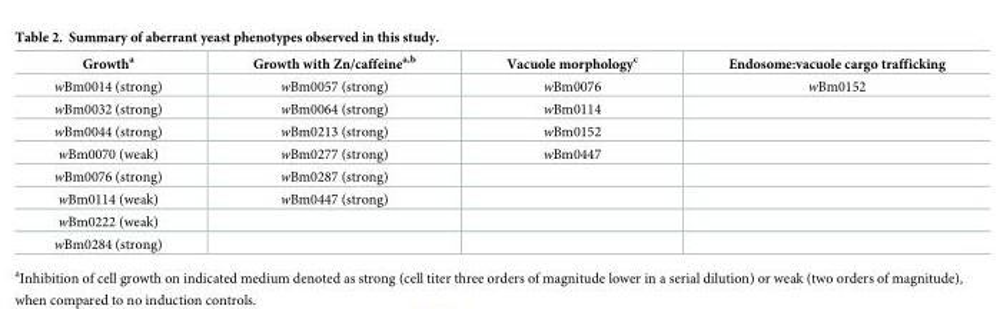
<table><thead><tr><td>Growth<sup>a</sup></td><td>Growth with Zn/caffeine<sup>a,b</sup></td><td>Vacuole morphology<sup>c</sup></td><td>Endosome:vacuole cargo trafficking</td></tr></thead><tbody><tr><td>wBm0014 (strong)</td><td>wBm0057 (strong)</td><td>wBm0076</td><td>wBm0152</td></tr><tr><td>wBm0032 (strong)</td><td>wBm0064 (strong)</td><td>wBm0114</td><td></td></tr><tr><td>wBm0044 (strong)</td><td>wBm0213 (strong)</td><td>wBm0152</td><td></td></tr><tr><td>wBm0070 (weak)</td><td>wBm0277 (strong)</td><td>wBm0447</td><td></td></tr><tr><td>wBm0076 (strong)</td><td>wBm0287 (strong)</td><td></td><td></td></tr><tr><td>wBm0114 (weak)</td><td>wBm0447 (strong)</td><td></td><td></td></tr><tr><td colspan="4">wBm0222 (weak)</td></tr><tr><td>wBm0284 (strong)</td><td></td><td></td><td></td></tr></tbody></table>